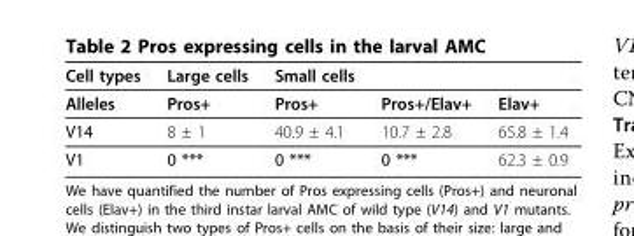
<table><thead><tr><td>Cell types</td><td>Large cells</td><td>Small cells</td><td></td><td></td></tr></thead><tbody><tr><td>Alleles</td><td>Pros+</td><td>Pros+</td><td>Pros+/Elav+</td><td>Elav+</td></tr><tr><td>V14</td><td>8 ± 1</td><td>40.9 ± 4.1</td><td>10.7 ± 2.8</td><td>65.8 ± 1.4</td></tr><tr><td>V1</td><td>0 ***</td><td>0 ***</td><td>0 ***</td><td>62.3 ± 0.9</td></tr></tbody></table>